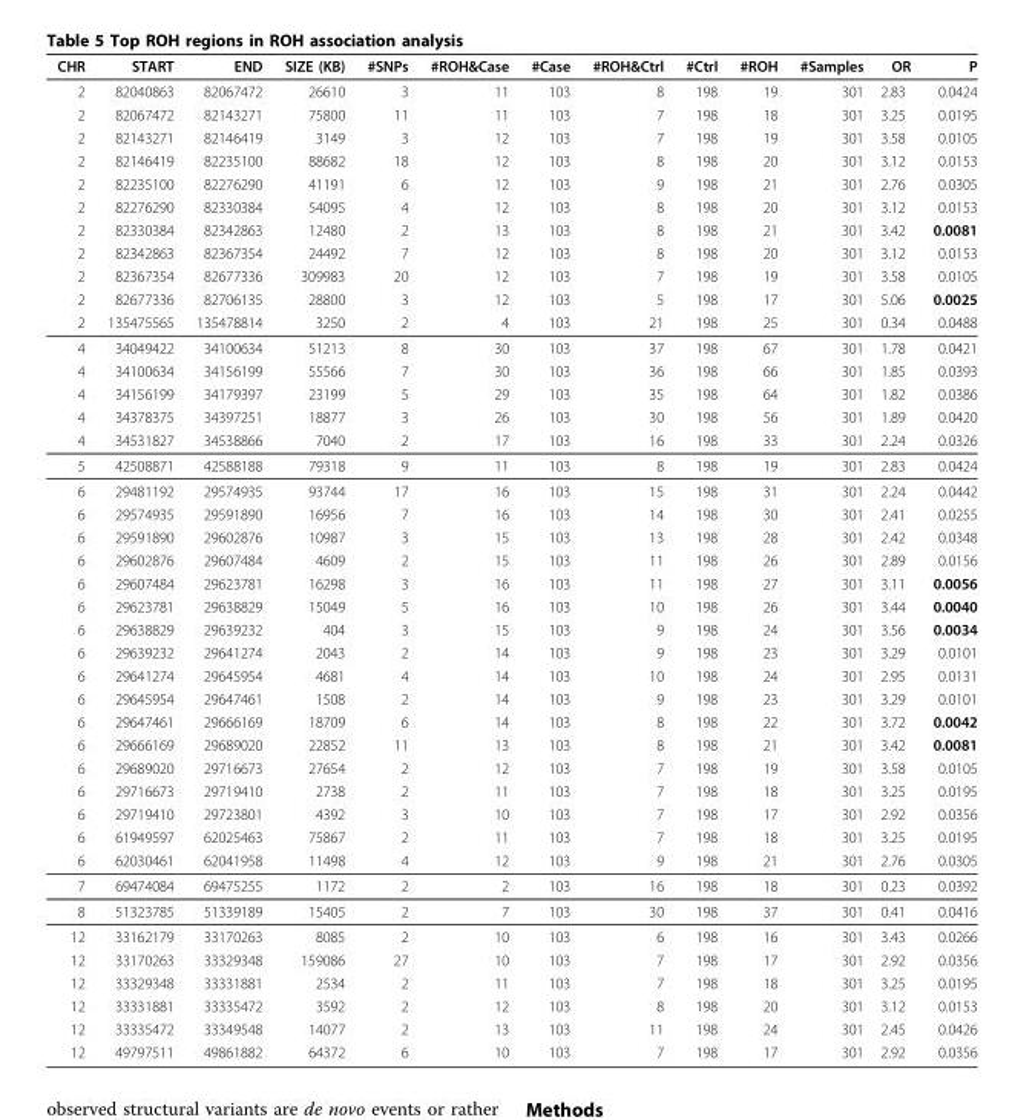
<table><thead><tr><td>CHR</td><td>START</td><td>END</td><td>SIZE (KB)</td><td>#SNPs</td><td>#ROH&amp;Case</td><td>#Case</td><td>#ROH&amp;Ctrl</td><td>#Ctrl</td><td>#ROH</td><td>#Samples</td><td>OR</td><td>P</td></tr></thead><tbody><tr><td>2</td><td>82040863</td><td>82067472</td><td>26610</td><td>3</td><td>11</td><td>103</td><td>8</td><td>198</td><td>19</td><td>301</td><td>2.83</td><td>0.0424</td></tr><tr><td>2</td><td>82067472</td><td>82143271</td><td>75800</td><td>11</td><td>11</td><td>103</td><td>7</td><td>198</td><td>18</td><td>301</td><td>3.25</td><td>0.0195</td></tr><tr><td>2</td><td>82143271</td><td>82146419</td><td>3149</td><td>3</td><td>12</td><td>103</td><td>7</td><td>198</td><td>19</td><td>301</td><td>3.58</td><td>0.0105</td></tr><tr><td>2</td><td>82146419</td><td>82235100</td><td>88682</td><td>18</td><td>12</td><td>103</td><td>8</td><td>198</td><td>20</td><td>301</td><td>3.12</td><td>0.0153</td></tr><tr><td>2</td><td>82235100</td><td>82276290</td><td>41191</td><td>6</td><td>12</td><td>103</td><td>9</td><td>198</td><td>21</td><td>301</td><td>2.76</td><td>0.0305</td></tr><tr><td>2</td><td>82276290</td><td>82330384</td><td>54095</td><td>4</td><td>12</td><td>103</td><td>8</td><td>198</td><td>20</td><td>301</td><td>3.12</td><td>0.0153</td></tr><tr><td>2</td><td>82330384</td><td>82342863</td><td>12480</td><td>2</td><td>13</td><td>103</td><td>8</td><td>198</td><td>21</td><td>301</td><td>3.42</td><td>0.0081</td></tr><tr><td>2</td><td>82342863</td><td>82367354</td><td>24492</td><td>7</td><td>12</td><td>103</td><td>8</td><td>198</td><td>20</td><td>301</td><td>3.12</td><td>0.0153</td></tr><tr><td>2</td><td>82367354</td><td>82677336</td><td>309983</td><td>20</td><td>12</td><td>103</td><td>7</td><td>198</td><td>19</td><td>301</td><td>3.58</td><td>0.0105</td></tr><tr><td>2</td><td>82677336</td><td>82706135</td><td>28800</td><td>3</td><td>12</td><td>103</td><td>5</td><td>198</td><td>17</td><td>301</td><td>5.06</td><td>0.0025</td></tr><tr><td>2</td><td>135475565</td><td>135478814</td><td>3250</td><td>2</td><td>4</td><td>103</td><td>21</td><td>198</td><td>25</td><td>301</td><td>0.34</td><td>0.0488</td></tr><tr><td>4</td><td>34049422</td><td>34100634</td><td>51213</td><td>8</td><td>30</td><td>103</td><td>37</td><td>198</td><td>67</td><td>301</td><td>1.78</td><td>0.0421</td></tr><tr><td>4</td><td>34100634</td><td>34156199</td><td>55566</td><td>7</td><td>30</td><td>103</td><td>36</td><td>198</td><td>66</td><td>301</td><td>1.85</td><td>0.0393</td></tr><tr><td>4</td><td>34156199</td><td>34179397</td><td>23199</td><td>5</td><td>29</td><td>103</td><td>35</td><td>198</td><td>64</td><td>301</td><td>1.82</td><td>0.0386</td></tr><tr><td>4</td><td>34378375</td><td>34397251</td><td>18877</td><td>3</td><td>26</td><td>103</td><td>30</td><td>198</td><td>56</td><td>301</td><td>1.89</td><td>0.0420</td></tr><tr><td>4</td><td>34531827</td><td>34538866</td><td>7040</td><td>2</td><td>17</td><td>103</td><td>16</td><td>198</td><td>33</td><td>301</td><td>2.24</td><td>0.0326</td></tr><tr><td>5</td><td>42508871</td><td>42588188</td><td>79318</td><td>9</td><td>11</td><td>103</td><td>8</td><td>198</td><td>19</td><td>301</td><td>2.83</td><td>0.0424</td></tr><tr><td>6</td><td>29481192</td><td>29574935</td><td>93744</td><td>17</td><td>16</td><td>103</td><td>15</td><td>198</td><td>31</td><td>301</td><td>2.24</td><td>0.0442</td></tr><tr><td>6</td><td>29574935</td><td>29591890</td><td>16956</td><td>7</td><td>16</td><td>103</td><td>14</td><td>198</td><td>30</td><td>301</td><td>2.41</td><td>0.0255</td></tr><tr><td>6</td><td>29591890</td><td>29602876</td><td>10987</td><td>3</td><td>15</td><td>103</td><td>13</td><td>198</td><td>28</td><td>301</td><td>2.42</td><td>0.0348</td></tr><tr><td>6</td><td>29602876</td><td>29607484</td><td>4609</td><td>2</td><td>15</td><td>103</td><td>11</td><td>198</td><td>26</td><td>301</td><td>2.89</td><td>0.0156</td></tr><tr><td>6</td><td>29607484</td><td>29623781</td><td>16298</td><td>3</td><td>16</td><td>103</td><td>11</td><td>198</td><td>27</td><td>301</td><td>3.11</td><td>0.0056</td></tr><tr><td>6</td><td>29623781</td><td>29638829</td><td>15049</td><td>5</td><td>16</td><td>103</td><td>10</td><td>198</td><td>26</td><td>301</td><td>3.44</td><td>0.0040</td></tr><tr><td>6</td><td>29638829</td><td>29639232</td><td>404</td><td>3</td><td>15</td><td>103</td><td>9</td><td>198</td><td>24</td><td>301</td><td>3.56</td><td>0.0034</td></tr><tr><td>6</td><td>29639232</td><td>29641274</td><td>2043</td><td>2</td><td>14</td><td>103</td><td>9</td><td>198</td><td>23</td><td>301</td><td>3.29</td><td>0.0101</td></tr><tr><td>6</td><td>29641274</td><td>29645954</td><td>4681</td><td>4</td><td>14</td><td>103</td><td>10</td><td>198</td><td>24</td><td>301</td><td>2.95</td><td>0.0131</td></tr><tr><td>6</td><td>29645954</td><td>29647461</td><td>1508</td><td>2</td><td>14</td><td>103</td><td>9</td><td>198</td><td>23</td><td>301</td><td>3.29</td><td>0.0101</td></tr><tr><td>6</td><td>29647461</td><td>29666169</td><td>18709</td><td>6</td><td>14</td><td>103</td><td>8</td><td>198</td><td>22</td><td>301</td><td>3.72</td><td>0.0042</td></tr><tr><td>6</td><td>29666169</td><td>29689020</td><td>22852</td><td>11</td><td>13</td><td>103</td><td>8</td><td>198</td><td>21</td><td>301</td><td>3.42</td><td>0.0081</td></tr><tr><td>6</td><td>29689020</td><td>29716673</td><td>27654</td><td>2</td><td>12</td><td>103</td><td>7</td><td>198</td><td>19</td><td>301</td><td>3.58</td><td>0.0105</td></tr><tr><td>6</td><td>29716673</td><td>29719410</td><td>2738</td><td>2</td><td>11</td><td>103</td><td>7</td><td>198</td><td>18</td><td>301</td><td>3.25</td><td>0.0195</td></tr><tr><td>6</td><td>29719410</td><td>29723801</td><td>4392</td><td>3</td><td>10</td><td>103</td><td>7</td><td>198</td><td>17</td><td>301</td><td>2.92</td><td>0.0356</td></tr><tr><td>6</td><td>61949597</td><td>62025463</td><td>75867</td><td>2</td><td>11</td><td>103</td><td>7</td><td>198</td><td>18</td><td>301</td><td>3.25</td><td>0.0195</td></tr><tr><td>6</td><td>62030461</td><td>62041958</td><td>11498</td><td>4</td><td>12</td><td>103</td><td>9</td><td>198</td><td>21</td><td>301</td><td>2.76</td><td>0.0305</td></tr><tr><td>7</td><td>69474084</td><td>69475255</td><td>1172</td><td>2</td><td>2</td><td>103</td><td>16</td><td>198</td><td>18</td><td>301</td><td>0.23</td><td>0.0392</td></tr><tr><td>8</td><td>51323785</td><td>51339189</td><td>15405</td><td>2</td><td>7</td><td>103</td><td>30</td><td>198</td><td>37</td><td>301</td><td>0.41</td><td>0.0416</td></tr><tr><td>12</td><td>33162179</td><td>33170263</td><td>8085</td><td>2</td><td>10</td><td>103</td><td>6</td><td>198</td><td>16</td><td>301</td><td>3.43</td><td>0.0266</td></tr><tr><td>12</td><td>33170263</td><td>33329348</td><td>159086</td><td>27</td><td>10</td><td>103</td><td>7</td><td>198</td><td>17</td><td>301</td><td>2.92</td><td>0.0356</td></tr><tr><td>12</td><td>33329348</td><td>33331881</td><td>2534</td><td>2</td><td>11</td><td>103</td><td>7</td><td>198</td><td>18</td><td>301</td><td>3.25</td><td>0.0195</td></tr><tr><td>12</td><td>33331881</td><td>33335472</td><td>3592</td><td>2</td><td>12</td><td>103</td><td>8</td><td>198</td><td>20</td><td>301</td><td>3.12</td><td>0.0153</td></tr><tr><td>12</td><td>33335472</td><td>33349548</td><td>14077</td><td>2</td><td>13</td><td>103</td><td>11</td><td>198</td><td>24</td><td>301</td><td>2.45</td><td>0.0426</td></tr><tr><td>12</td><td>49797511</td><td>49861882</td><td>64372</td><td>6</td><td>10</td><td>103</td><td>7</td><td>198</td><td>17</td><td>301</td><td>2.92</td><td>0.0356</td></tr></tbody></table>